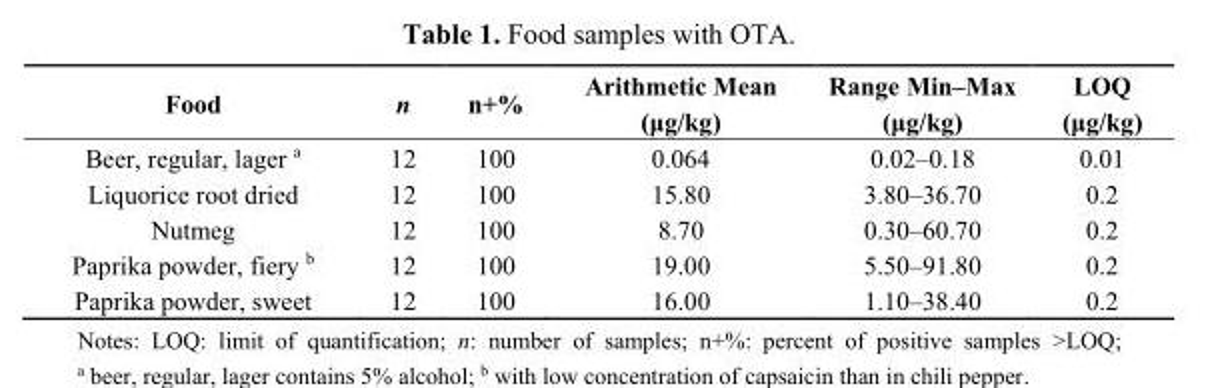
<table><thead><tr><td>Food</td><td>n</td><td>n+%</td><td>Arithmetic Mean (μg/kg)</td><td>Range Min–Max (μg/kg)</td><td>LOQ (μg/kg)</td></tr></thead><tbody><tr><td>Beer, regular, lager <sup>a</sup></td><td>12</td><td>100</td><td>0.064</td><td>0.02–0.18</td><td>0.01</td></tr><tr><td>Liquorice root dried</td><td>12</td><td>100</td><td>15.80</td><td>3.80–36.70</td><td>0.2</td></tr><tr><td>Nutmeg</td><td>12</td><td>100</td><td>8.70</td><td>0.30–60.70</td><td>0.2</td></tr><tr><td>Paprika powder, fiery <sup>b</sup></td><td>12</td><td>100</td><td>19.00</td><td>5.50–91.80</td><td>0.2</td></tr><tr><td>Paprika powder, sweet</td><td>12</td><td>100</td><td>16.00</td><td>1.10–38.40</td><td>0.2</td></tr></tbody></table>